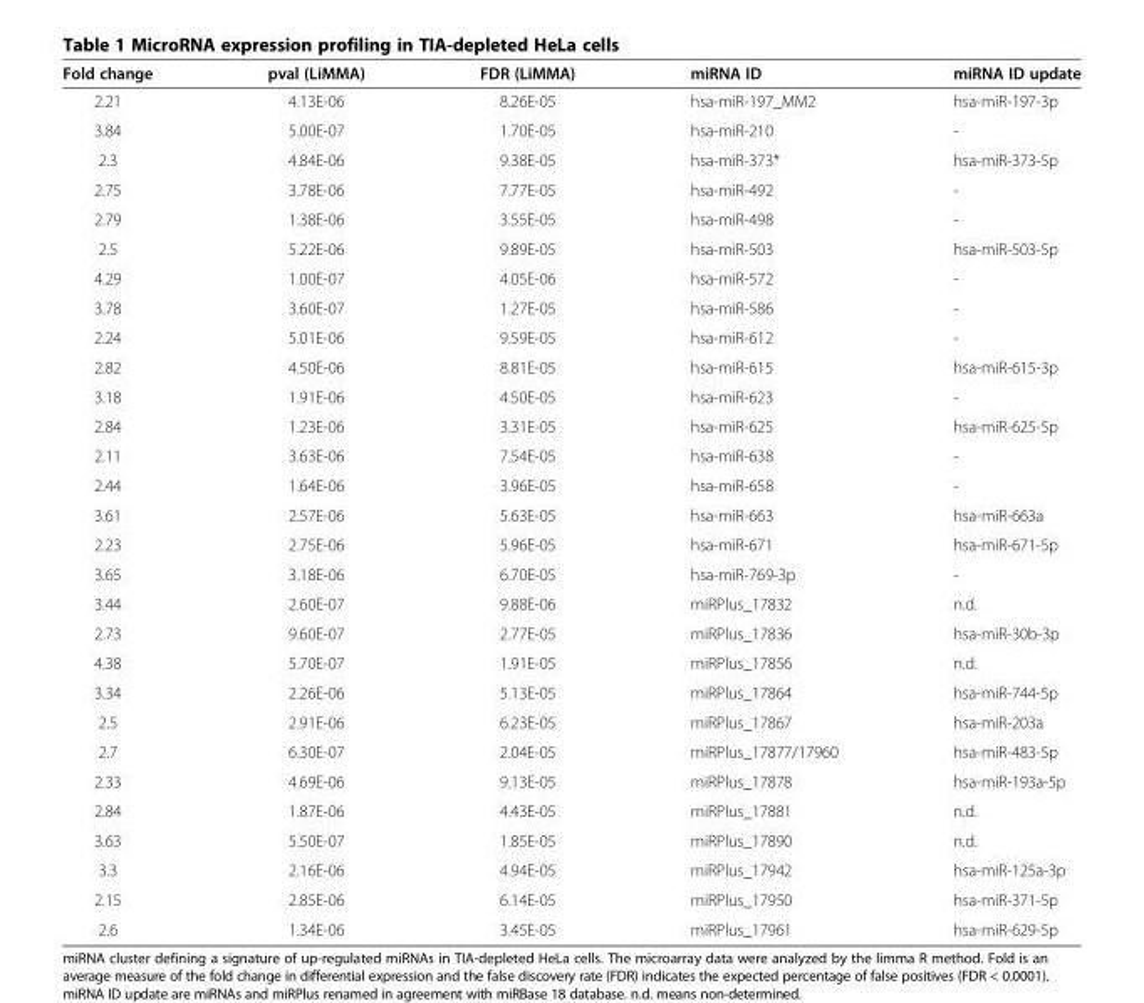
<table><thead><tr><td>Fold change</td><td>pval (LiMMA)</td><td>FDR (LiMMA)</td><td>miRNA ID</td><td>miRNA ID update</td></tr></thead><tbody><tr><td>2.21</td><td>4.13E-06</td><td>8.26E-05</td><td>hsa-miR-197_MM2</td><td>hsa-miR-197-3p</td></tr><tr><td>3.84</td><td>5.00E-07</td><td>1.70E-05</td><td>hsa-miR-210</td><td>-</td></tr><tr><td>2.3</td><td>4.84E-06</td><td>9.38E-05</td><td>hsa-miR-373*</td><td>hsa-miR-373-5p</td></tr><tr><td>2.75</td><td>3.78E-06</td><td>7.77E-05</td><td>hsa-miR-492</td><td>-</td></tr><tr><td>2.79</td><td>1.38E-06</td><td>3.55E-05</td><td>hsa-miR-498</td><td>-</td></tr><tr><td>2.5</td><td>5.22E-06</td><td>9.89E-05</td><td>hsa-miR-503</td><td>hsa-miR-503-5p</td></tr><tr><td>4.29</td><td>1.00E-07</td><td>4.05E-06</td><td>hsa-miR-572</td><td>-</td></tr><tr><td>3.78</td><td>3.60E-07</td><td>1.27E-05</td><td>hsa-miR-586</td><td>-</td></tr><tr><td>2.24</td><td>5.01E-06</td><td>9.59E-05</td><td>hsa-miR-612</td><td>-</td></tr><tr><td>2.82</td><td>4.50E-06</td><td>8.81E-05</td><td>hsa-miR-615</td><td>hsa-miR-615-3p</td></tr><tr><td>3.18</td><td>1.91E-06</td><td>4.50E-05</td><td>hsa-miR-623</td><td>-</td></tr><tr><td>2.84</td><td>1.23E-06</td><td>3.31E-05</td><td>hsa-miR-625</td><td>hsa-miR-625-5p</td></tr><tr><td>2.11</td><td>3.63E-06</td><td>7.54E-05</td><td>hsa-miR-638</td><td>-</td></tr><tr><td>2.44</td><td>1.64E-06</td><td>3.96E-05</td><td>hsa-miR-658</td><td>-</td></tr><tr><td>3.61</td><td>2.57E-06</td><td>5.63E-05</td><td>hsa-miR-663</td><td>hsa-miR-663a</td></tr><tr><td>2.23</td><td>2.75E-06</td><td>5.96E-05</td><td>hsa-miR-671</td><td>hsa-miR-671-5p</td></tr><tr><td>3.65</td><td>3.18E-06</td><td>6.70E-05</td><td>hsa-miR-769-3p</td><td>-</td></tr><tr><td>3.44</td><td>2.60E-07</td><td>9.88E-06</td><td>miRPlus_17832</td><td>n.d.</td></tr><tr><td>2.73</td><td>9.60E-07</td><td>2.77E-05</td><td>miRPlus_17836</td><td>hsa-miR-30b-3p</td></tr><tr><td>4.38</td><td>5.70E-07</td><td>1.91E-05</td><td>miRPlus_17856</td><td>n.d.</td></tr><tr><td>3.34</td><td>2.26E-06</td><td>5.13E-05</td><td>miRPlus_17864</td><td>hsa-miR-744-5p</td></tr><tr><td>2.5</td><td>2.91E-06</td><td>6.23E-05</td><td>miRPlus_17867</td><td>hsa-miR-203a</td></tr><tr><td>2.7</td><td>6.30E-07</td><td>2.04E-05</td><td>miRPlus_17877/17960</td><td>hsa-miR-483-5p</td></tr><tr><td>2.33</td><td>4.69E-06</td><td>9.13E-05</td><td>miRPlus_17878</td><td>hsa-miR-193a-5p</td></tr><tr><td>2.84</td><td>1.87E-06</td><td>4.43E-05</td><td>miRPlus_17881</td><td>n.d.</td></tr><tr><td>3.63</td><td>5.50E-07</td><td>1.85E-05</td><td>miRPlus_17890</td><td>n.d.</td></tr><tr><td>3.3</td><td>2.16E-06</td><td>4.94E-05</td><td>miRPlus_17942</td><td>hsa-miR-125a-3p</td></tr><tr><td>2.15</td><td>2.85E-06</td><td>6.14E-05</td><td>miRPlus_17950</td><td>hsa-miR-371-5p</td></tr><tr><td>2.6</td><td>1.34E-06</td><td>3.45E-05</td><td>miRPlus_17961</td><td>hsa-miR-629-5p</td></tr></tbody></table>